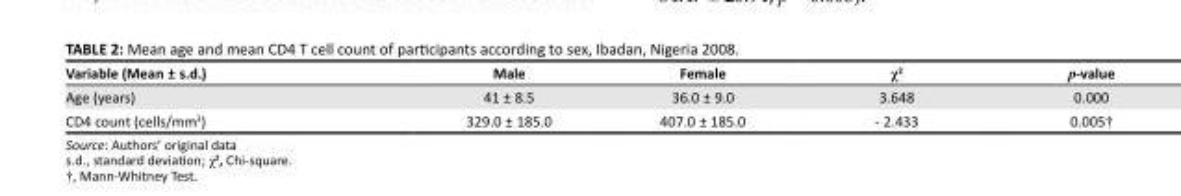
<table><thead><tr><td>Variable (Mean ± s.d.)</td><td>Male</td><td>Female</td><td>χ<sup>2</sup></td><td>p-value</td></tr></thead><tbody><tr><td>Age (years)</td><td>41 ± 8.5</td><td>36.0 ± 9.0</td><td>3.648</td><td>0.000</td></tr><tr><td>CD4 count (cells/mm<sup>3</sup>)</td><td>329.0 ± 185.0</td><td>407.0 ± 185.0</td><td>- 2.433</td><td>0.005†</td></tr></tbody></table>